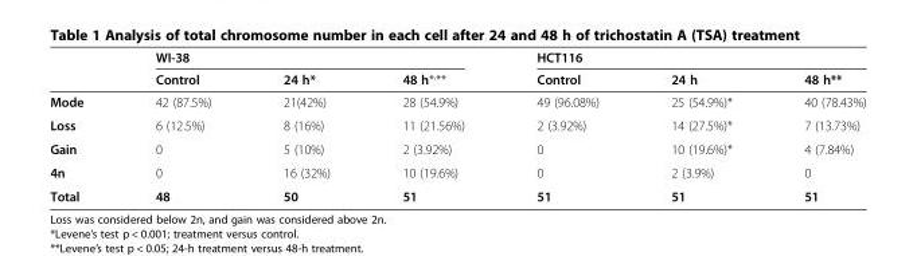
<table><thead><tr><td rowspan="2"></td><td colspan="3">WI-38</td><td colspan="3">HCT116</td></tr><tr><td>Control</td><td>24 h*</td><td>48 h*<sup>,</sup>**</td><td>Control</td><td>24 h</td><td>48 h**</td></tr></thead><tbody><tr><td>Mode</td><td>42 (87.5%)</td><td>21(42%)</td><td>28 (54.9%)</td><td>49 (96.08%)</td><td>25 (54.9%)*</td><td>40 (78.43%)</td></tr><tr><td>Loss</td><td>6 (12.5%)</td><td>8 (16%)</td><td>11 (21.56%)</td><td>2 (3.92%)</td><td>14 (27.5%)*</td><td>7 (13.73%)</td></tr><tr><td>Gain</td><td>0</td><td>5 (10%)</td><td>2 (3.92%)</td><td>0</td><td>10 (19.6%)*</td><td>4 (7.84%)</td></tr><tr><td>4n</td><td>0</td><td>16 (32%)</td><td>10 (19.6%)</td><td>0</td><td>2 (3.9%)</td><td>0</td></tr><tr><td>Total</td><td>48</td><td>50</td><td>51</td><td>51</td><td>51</td><td>51</td></tr></tbody></table>